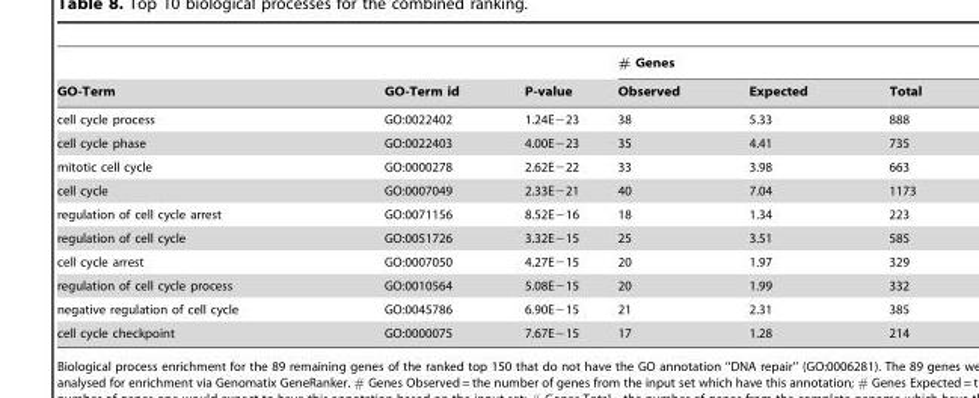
<table><thead><tr><td rowspan="2">GO-Term</td><td rowspan="2">GO-Term id</td><td rowspan="2">P-value</td><td colspan="3"># Genes</td></tr><tr><td>Observed</td><td>Expected</td><td>Total</td></tr></thead><tbody><tr><td>cell cycle process</td><td>GO:0022402</td><td>1.24E−23</td><td>38</td><td>5.33</td><td>888</td></tr><tr><td>cell cycle phase</td><td>GO:0022403</td><td>4.00E−23</td><td>35</td><td>4.41</td><td>735</td></tr><tr><td>mitotic cell cycle</td><td>GO:0000278</td><td>2.62E−22</td><td>33</td><td>3.98</td><td>663</td></tr><tr><td>cell cycle</td><td>GO:0007049</td><td>2.33E−21</td><td>40</td><td>7.04</td><td>1173</td></tr><tr><td>regulation of cell cycle arrest</td><td>GO:0071156</td><td>8.52E−16</td><td>18</td><td>1.34</td><td>223</td></tr><tr><td>regulation of cell cycle</td><td>GO:0051726</td><td>3.32E−15</td><td>25</td><td>3.51</td><td>585</td></tr><tr><td>cell cycle arrest</td><td>GO:0007050</td><td>4.27E−15</td><td>20</td><td>1.97</td><td>329</td></tr><tr><td>regulation of cell cycle process</td><td>GO:0010564</td><td>5.08E−15</td><td>20</td><td>1.99</td><td>332</td></tr><tr><td>negative regulation of cell cycle</td><td>GO:0045786</td><td>6.90E−15</td><td>21</td><td>2.31</td><td>385</td></tr><tr><td>cell cycle checkpoint</td><td>GO:0000075</td><td>7.67E−15</td><td>17</td><td>1.28</td><td>214</td></tr></tbody></table>